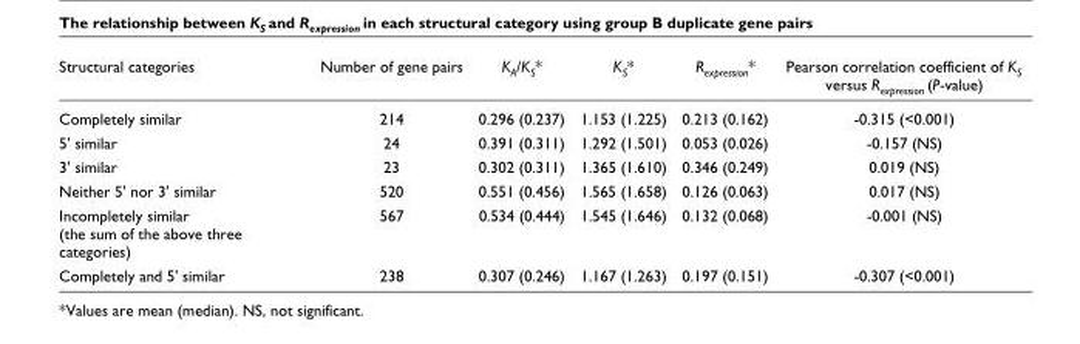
<table><thead><tr><td>Structural categories</td><td>Number of gene pairs</td><td>K<sub>A</sub>/K<sub>S</sub>*</td><td>K<sub>S</sub>*</td><td>R<sub>expression</sub>*</td><td>Pearson correlation coefficient of K<sub>S</sub> versus R<sub>expression</sub> (P-value)</td></tr></thead><tbody><tr><td>Completely similar</td><td>214</td><td>0.296 (0.237)</td><td>1.153 (1.225)</td><td>0.213 (0.162)</td><td>-0.315 (&lt;0.001)</td></tr><tr><td>5&#x27; similar</td><td>24</td><td>0.391 (0.311)</td><td>1.292 (1.501)</td><td>0.053 (0.026)</td><td>-0.157 (NS)</td></tr><tr><td>3&#x27; similar</td><td>23</td><td>0.302 (0.311)</td><td>1.365 (1.610)</td><td>0.346 (0.249)</td><td>0.019 (NS)</td></tr><tr><td>Neither 5&#x27; nor 3&#x27; similar</td><td>520</td><td>0.551 (0.456)</td><td>1.565 (1.658)</td><td>0.126 (0.063)</td><td>0.017 (NS)</td></tr><tr><td>Incompletely similar (the sum of the above three categories)</td><td>567</td><td>0.534 (0.444)</td><td>1.545 (1.646)</td><td>0.132 (0.068)</td><td>-0.001 (NS)</td></tr><tr><td>Completely and 5&#x27; similar</td><td>238</td><td>0.307 (0.246)</td><td>1.167 (1.263)</td><td>0.197 (0.151)</td><td>-0.307 (&lt;0.001)</td></tr></tbody></table>